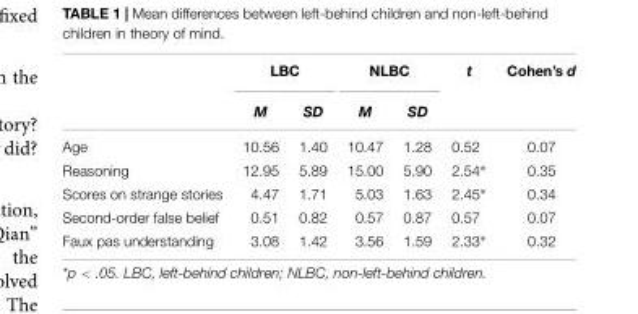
<table><thead><tr><td rowspan="2"></td><td colspan="2">LBC</td><td colspan="2">NLBC</td><td rowspan="2">t</td><td rowspan="2">Cohen’s d</td></tr><tr><td>M</td><td>SD</td><td>M</td><td>SD</td></tr></thead><tbody><tr><td>Age</td><td>10.56</td><td>1.40</td><td>10.47</td><td>1.28</td><td>0.52</td><td>0.07</td></tr><tr><td>Reasoning</td><td>12.95</td><td>5.89</td><td>15.00</td><td>5.90</td><td>2.54∗</td><td>0.35</td></tr><tr><td>Scores on strange stories</td><td>4.47</td><td>1.71</td><td>5.03</td><td>1.63</td><td>2.45∗</td><td>0.34</td></tr><tr><td>Second-order false belief</td><td>0.51</td><td>0.82</td><td>0.57</td><td>0.87</td><td>0.57</td><td>0.07</td></tr><tr><td>Faux pas understanding</td><td>3.08</td><td>1.42</td><td>3.56</td><td>1.59</td><td>2.33∗</td><td>0.32</td></tr></tbody></table>